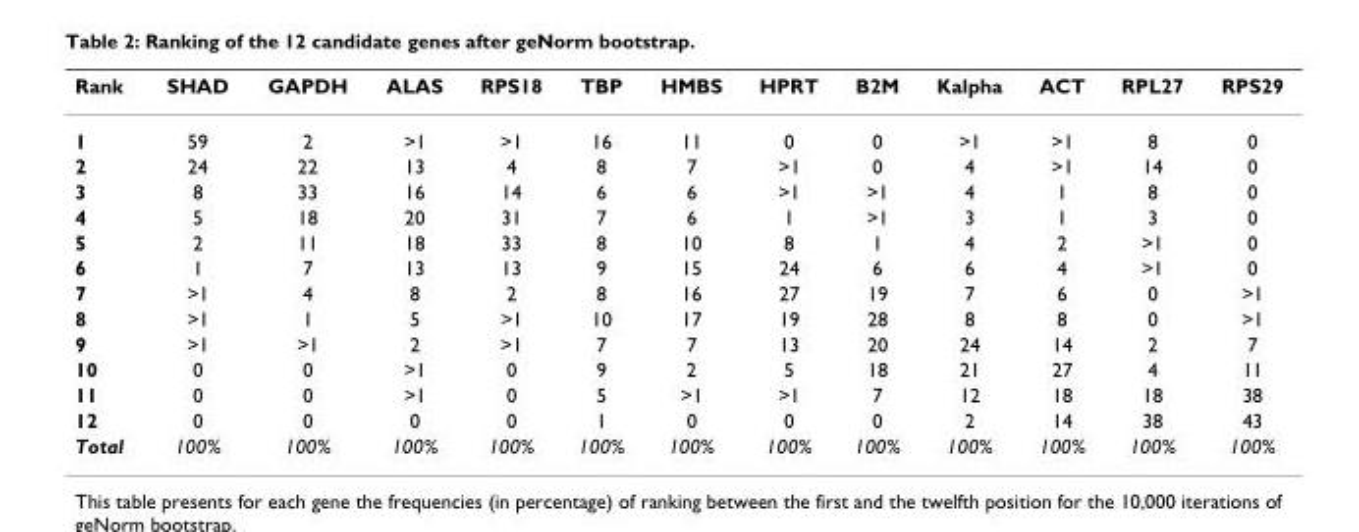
<table><thead><tr><td>Rank</td><td>SHAD</td><td>GAPDH</td><td>ALAS</td><td>RPS18</td><td>TBP</td><td>HMBS</td><td>HPRT</td><td>B2M</td><td>Kalpha</td><td>ACT</td><td>RPL27</td><td>RPS29</td></tr></thead><tbody><tr><td>1</td><td>59</td><td>2</td><td>&gt;1</td><td>&gt;1</td><td>16</td><td>11</td><td>0</td><td>0</td><td>&gt;1</td><td>&gt;1</td><td>8</td><td>0</td></tr><tr><td>2</td><td>24</td><td>22</td><td>13</td><td>4</td><td>8</td><td>7</td><td>&gt;1</td><td>0</td><td>4</td><td>&gt;1</td><td>14</td><td>0</td></tr><tr><td>3</td><td>8</td><td>33</td><td>16</td><td>14</td><td>6</td><td>6</td><td>&gt;1</td><td>&gt;1</td><td>4</td><td>1</td><td>8</td><td>0</td></tr><tr><td>4</td><td>5</td><td>18</td><td>20</td><td>31</td><td>7</td><td>6</td><td>1</td><td>&gt;1</td><td>3</td><td>1</td><td>3</td><td>0</td></tr><tr><td>5</td><td>2</td><td>11</td><td>18</td><td>33</td><td>8</td><td>10</td><td>8</td><td>1</td><td>4</td><td>2</td><td>&gt;1</td><td>0</td></tr><tr><td>6</td><td>1</td><td>7</td><td>13</td><td>13</td><td>9</td><td>15</td><td>24</td><td>6</td><td>6</td><td>4</td><td>&gt;1</td><td>0</td></tr><tr><td>7</td><td>&gt;1</td><td>4</td><td>8</td><td>2</td><td>8</td><td>16</td><td>27</td><td>19</td><td>7</td><td>6</td><td>0</td><td>&gt;1</td></tr><tr><td>8</td><td>&gt;1</td><td>1</td><td>5</td><td>&gt;1</td><td>10</td><td>17</td><td>19</td><td>28</td><td>8</td><td>8</td><td>0</td><td>&gt;1</td></tr><tr><td>9</td><td>&gt;1</td><td>&gt;1</td><td>2</td><td>&gt;1</td><td>7</td><td>7</td><td>13</td><td>20</td><td>24</td><td>14</td><td>2</td><td>7</td></tr><tr><td>10</td><td>0</td><td>0</td><td>&gt;1</td><td>0</td><td>9</td><td>2</td><td>5</td><td>18</td><td>21</td><td>27</td><td>4</td><td>11</td></tr><tr><td>11</td><td>0</td><td>0</td><td>&gt;1</td><td>0</td><td>5</td><td>&gt;1</td><td>&gt;1</td><td>7</td><td>12</td><td>18</td><td>18</td><td>38</td></tr><tr><td>12</td><td>0</td><td>0</td><td>0</td><td>0</td><td>1</td><td>0</td><td>0</td><td>0</td><td>2</td><td>14</td><td>38</td><td>43</td></tr><tr><td>Total</td><td>100%</td><td>100%</td><td>100%</td><td>100%</td><td>100%</td><td>100%</td><td>100%</td><td>100%</td><td>100%</td><td>100%</td><td>100%</td><td>100%</td></tr></tbody></table>